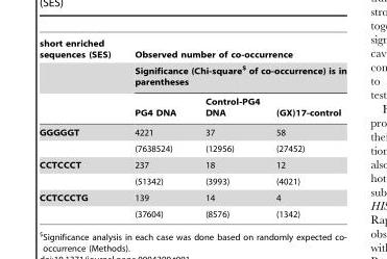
<table><thead><tr><td rowspan="3">short enriched sequences (SES)</td><td rowspan="2" colspan="3">Observed number of co-occurrence Significance (Chi-square$ of co-occurrence) is in parentheses</td></tr><tr></tr><tr><td>PG4 DNA</td><td>Control-PG4 DNA</td><td>(GX)17-control</td></tr></thead><tbody><tr><td rowspan="2">GGGGGT</td><td>4221</td><td>37</td><td>58</td></tr><tr><td>(7638524)</td><td>(12956)</td><td>(27452)</td></tr><tr><td rowspan="2">CCTCCCT</td><td>237</td><td>18</td><td>12</td></tr><tr><td>(51342)</td><td>(3993)</td><td>(4021)</td></tr><tr><td rowspan="2">CCTCCCTG</td><td>139</td><td>14</td><td>4</td></tr><tr><td>(37604)</td><td>(8576)</td><td>(1342)</td></tr></tbody></table>